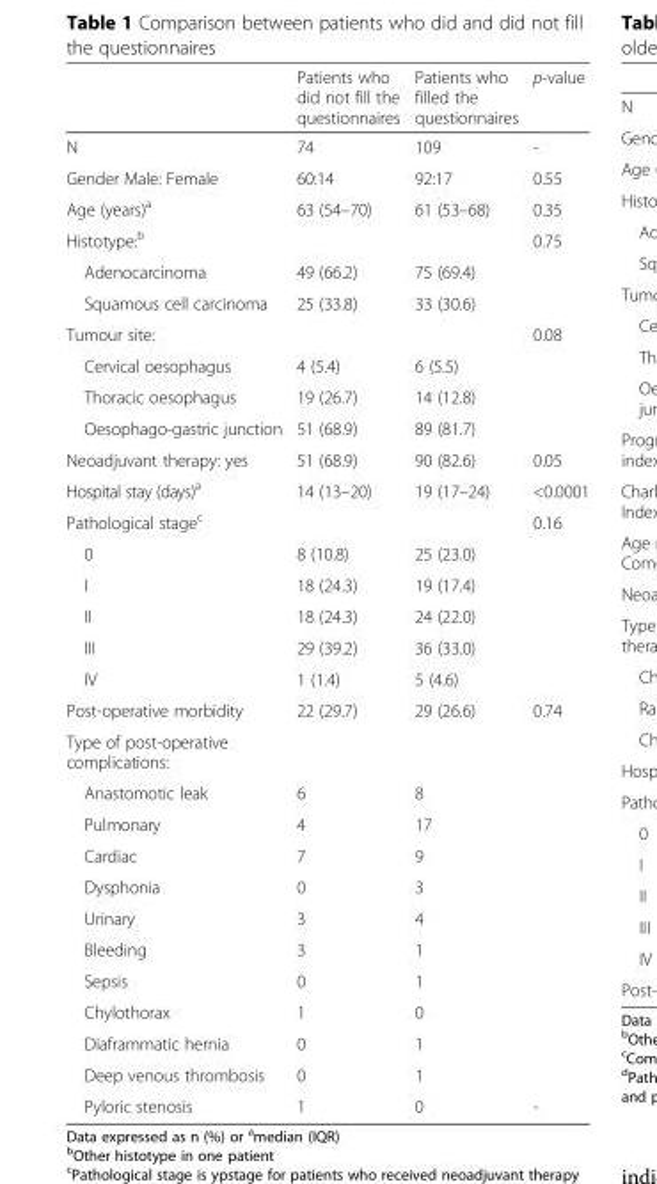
<table><thead><tr><td></td><td>Patients who did not fill the questionnaires</td><td>Patients who filled the questionnaires</td><td>p-value</td></tr></thead><tbody><tr><td>N</td><td>74</td><td>109</td><td>-</td></tr><tr><td>Gender Male: Female</td><td>60:14</td><td>92:17</td><td>0.55</td></tr><tr><td>Age (years)<sup>a</sup></td><td>63 (54–70)</td><td>61 (53–68)</td><td>0.35</td></tr><tr><td>Histotype:<sup>b</sup></td><td></td><td></td><td>0.75</td></tr><tr><td>Adenocarcinoma</td><td>49 (66.2)</td><td>75 (69.4)</td><td></td></tr><tr><td>Squamous cell carcinoma</td><td>25 (33.8)</td><td>33 (30.6)</td><td></td></tr><tr><td>Tumour site:</td><td></td><td></td><td>0.08</td></tr><tr><td>Cervical oesophagus</td><td>4 (5.4)</td><td>6 (5.5)</td><td></td></tr><tr><td>Thoracic oesophagus</td><td>19 (26.7)</td><td>14 (12.8)</td><td></td></tr><tr><td>Oesophago-gastric junction</td><td>51 (68.9)</td><td>89 (81.7)</td><td></td></tr><tr><td>Neoadjuvant therapy: yes</td><td>51 (68.9)</td><td>90 (82.6)</td><td>0.05</td></tr><tr><td>Hospital stay (days)<sup>a</sup></td><td>14 (13–20)</td><td>19 (17–24)</td><td>&lt;0.0001</td></tr><tr><td>Pathological stage<sup>c</sup></td><td></td><td></td><td>0.16</td></tr><tr><td>0</td><td>8 (10.8)</td><td>25 (23.0)</td><td></td></tr><tr><td>I</td><td>18 (24.3)</td><td>19 (17.4)</td><td></td></tr><tr><td>II</td><td>18 (24.3)</td><td>24 (22.0)</td><td></td></tr><tr><td>III</td><td>29 (39.2)</td><td>36 (33.0)</td><td></td></tr><tr><td>IV</td><td>1 (1.4)</td><td>5 (4.6)</td><td></td></tr><tr><td>Post-operative morbidity</td><td>22 (29.7)</td><td>29 (26.6)</td><td>0.74</td></tr><tr><td colspan="4">Type of post-operative complications:</td></tr><tr><td>Anastomotic leak</td><td>6</td><td>8</td><td></td></tr><tr><td>Pulmonary</td><td>4</td><td>17</td><td></td></tr><tr><td>Cardiac</td><td>7</td><td>9</td><td></td></tr><tr><td>Dysphonia</td><td>0</td><td>3</td><td></td></tr><tr><td>Urinary</td><td>3</td><td>4</td><td></td></tr><tr><td>Bleeding</td><td>3</td><td>1</td><td></td></tr><tr><td>Sepsis</td><td>0</td><td>1</td><td></td></tr><tr><td>Chylothorax</td><td>1</td><td>0</td><td></td></tr><tr><td>Diaframmatic hernia</td><td>0</td><td>1</td><td></td></tr><tr><td>Deep venous thrombosis</td><td>0</td><td>1</td><td></td></tr><tr><td>Pyloric stenosis</td><td>1</td><td>0</td><td>-</td></tr></tbody></table>